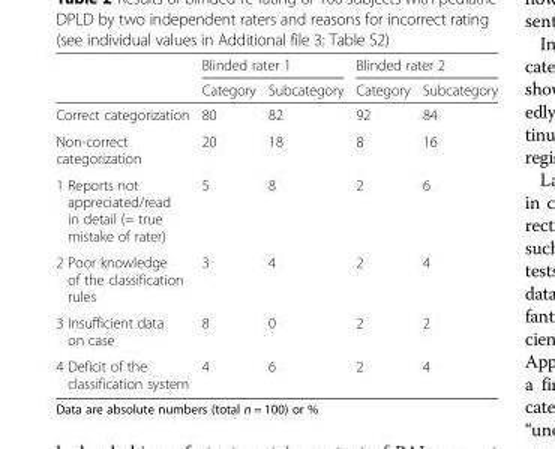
<table><thead><tr><td rowspan="2"></td><td colspan="2">Blinded rater 1</td><td colspan="2">Blinded rater 2</td></tr><tr><td>Category</td><td>Subcategory</td><td>Category</td><td>Subcategory</td></tr></thead><tbody><tr><td>Correct categorization</td><td>80</td><td>82</td><td>92</td><td>84</td></tr><tr><td>Non-correct categorization</td><td>20</td><td>18</td><td>8</td><td>16</td></tr><tr><td>1 Reports not appreciated/read in detail (= true mistake of rater)</td><td>5</td><td>8</td><td>2</td><td>6</td></tr><tr><td>2 Poor knowledge of the classification rules</td><td>3</td><td>4</td><td>2</td><td>4</td></tr><tr><td>3 Insufficient data on case</td><td>8</td><td>0</td><td>2</td><td>2</td></tr><tr><td>4 Deficit of the classification system</td><td>4</td><td>6</td><td>2</td><td>4</td></tr></tbody></table>